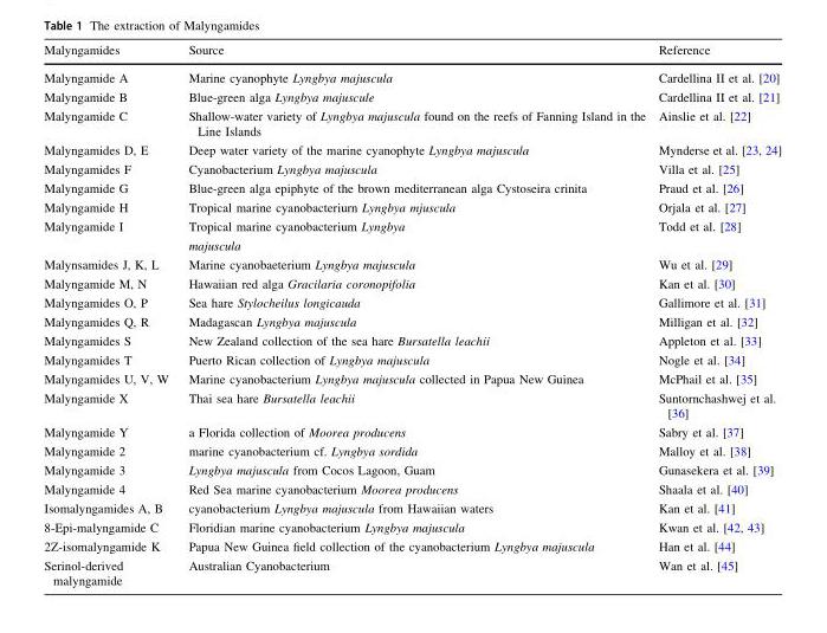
<table><thead><tr><td>Malyngamides</td><td>Source</td><td>Reference</td></tr></thead><tbody><tr><td>Malyngamide A</td><td>Marine cyanophyte Lyngbya majuscula</td><td>Cardellina II et al. [20]</td></tr><tr><td>Malyngamide B</td><td>Blue-green alga Lyngbya majuscule</td><td>Cardellina II et al. [21]</td></tr><tr><td>Malyngamide C</td><td>Shallow-water variety of Lyngbya majuscula found on the reefs of Fanning Island in the Line Islands</td><td>Ainslie et al. [22]</td></tr><tr><td>Malyngamides D, E</td><td>Deep water variety of the marine cyanophyte Lyngbya majuscula</td><td>Mynderse et al. [23, 24]</td></tr><tr><td>Malyngamides F</td><td>Cyanobacterium Lyngbya majuscula</td><td>Villa et al. [25]</td></tr><tr><td>Malyngamide G</td><td>Blue-green alga epiphyte of the brown mediterranean alga Cystoseira crinita</td><td>Praud et al. [26]</td></tr><tr><td>Malyngamide H</td><td>Tropical marine cyanobacteriurn Lyngbya mjuscula</td><td>Orjala et al. [27]</td></tr><tr><td>Malyngamide I</td><td>Tropical marine cyanobacterium Lyngbya majuscula</td><td>Todd et al. [28]</td></tr><tr><td>Malynsamides J, K, L</td><td>Marine cyanobaeterium Lyngbya majuscula</td><td>Wu et al. [29]</td></tr><tr><td>Malyngamide M, N</td><td>Hawaiian red alga Gracilaria coronopifolia</td><td>Kan et al. [30]</td></tr><tr><td>Malyngamides O, P</td><td>Sea hare Stylocheilus longicauda</td><td>Gallimore et al. [31]</td></tr><tr><td>Malyngamides Q, R</td><td>Madagascan Lyngbya majuscula</td><td>Milligan et al. [32]</td></tr><tr><td>Malyngamides S</td><td>New Zealand collection of the sea hare Bursatella leachii</td><td>Appleton et al. [33]</td></tr><tr><td>Malyngamides T</td><td>Puerto Rican collection of Lyngbya majuscula</td><td>Nogle et al. [34]</td></tr><tr><td>Malyngamides U, V, W</td><td>Marine cyanobacterium Lyngbya majuscula collected in Papua New Guinea</td><td>McPhail et al. [35]</td></tr><tr><td>Malyngamide X</td><td>Thai sea hare Bursatella leachii</td><td>Suntornchashwej et al. [36]</td></tr><tr><td>Malyngamide Y</td><td>a Florida collection of Moorea producens</td><td>Sabry et al. [37]</td></tr><tr><td>Malyngamide 2</td><td>marine cyanobacterium cf. Lyngbya sordida</td><td>Malloy et al. [38]</td></tr><tr><td>Malyngamide 3</td><td>Lyngbya majuscula from Cocos Lagoon, Guam</td><td>Gunasekera et al. [39]</td></tr><tr><td>Malyngamide 4</td><td>Red Sea marine cyanobacterium Moorea producens</td><td>Shaala et al. [40]</td></tr><tr><td>Isomalyngamides A, B</td><td>cyanobacterium Lyngbya majuscula from Hawaiian waters</td><td>Kan et al. [41]</td></tr><tr><td>8-Epi-malyngamide C</td><td>Floridian marine cyanobacterium Lyngbya majuscula</td><td>Kwan et al. [42, 43]</td></tr><tr><td>2Z-isomalyngamide K</td><td>Papua New Guinea field collection of the cyanobacterium Lyngbya majuscula</td><td>Han et al. [44]</td></tr><tr><td>Serinol-derived malyngamide</td><td>Australian Cyanobacterium</td><td>Wan et al. [45]</td></tr></tbody></table>